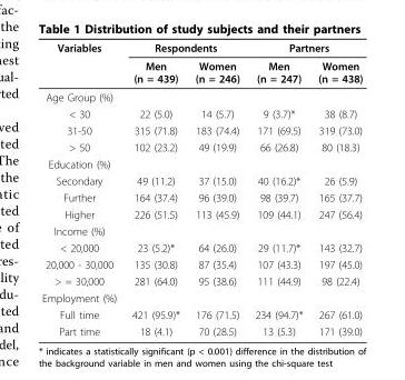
<table><thead><tr><td rowspan="2">Variables</td><td colspan="2">Respondents</td><td colspan="2">Partners</td></tr><tr><td>Men (n = 439)</td><td>Women (n = 246)</td><td>Men (n = 247)</td><td>Women (n = 438)</td></tr></thead><tbody><tr><td colspan="5">Age Group (%)</td></tr><tr><td>&lt; 30</td><td>22 (5.0)</td><td>14 (5.7)</td><td>9 (3.7)*</td><td>38 (8.7)</td></tr><tr><td>31-50</td><td>315 (71.8)</td><td>183 (74.4)</td><td>171 (69.5)</td><td>319 (73.0)</td></tr><tr><td>&gt; 50</td><td>102 (23.2)</td><td>49 (19.9)</td><td>66 (26.8)</td><td>80 (18.3)</td></tr><tr><td colspan="5">Education (%)</td></tr><tr><td>Secondary</td><td>49 (11.2)</td><td>37 (15.0)</td><td>40 (16.2)*</td><td>26 (5.9)</td></tr><tr><td>Further</td><td>164 (37.4)</td><td>96 (39.0)</td><td>98 (39.7)</td><td>165 (37.7)</td></tr><tr><td>Higher</td><td>226 (51.5)</td><td>113 (45.9)</td><td>109 (44.1)</td><td>247 (56.4)</td></tr><tr><td colspan="5">Income (%)</td></tr><tr><td>&lt; 20,000</td><td>23 (5.2)*</td><td>64 (26.0)</td><td>29 (11.7)*</td><td>143 (32.7)</td></tr><tr><td>20,000 - 30,000</td><td>135 (30.8)</td><td>87 (35.4)</td><td>107 (43.3)</td><td>197 (45.0)</td></tr><tr><td>&gt; = 30,000</td><td>281 (64.0)</td><td>95 (38.6)</td><td>111 (44.9)</td><td>98 (22.4)</td></tr><tr><td colspan="5">Employment (%)</td></tr><tr><td>Full time</td><td>421 (95.9)*</td><td>176 (71.5)</td><td>234 (94.7)*</td><td>267 (61.0)</td></tr><tr><td>Part time</td><td>18 (4.1)</td><td>70 (28.5)</td><td>13 (5.3)</td><td>171 (39.0)</td></tr></tbody></table>